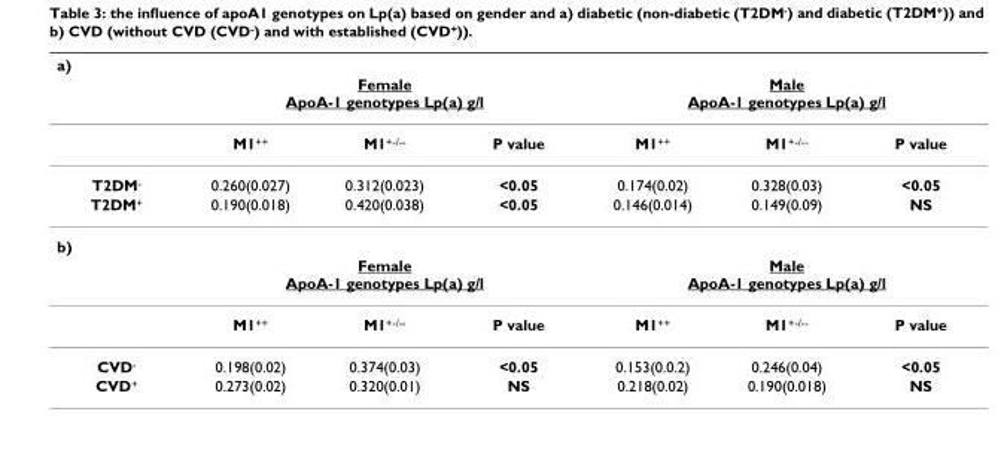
<table><thead><tr><td colspan="7">a)</td></tr><tr><td rowspan="2"></td><td colspan="3">Female ApoA-1 genotypes Lp(a) g/l</td><td colspan="3">Male ApoA-1 genotypes Lp(a) g/l</td></tr><tr><td>M1<sup>++</sup></td><td>M1<sup>+-/--</sup></td><td>P value</td><td>M1<sup>++</sup></td><td>M1<sup>+-/--</sup></td><td>P value</td></tr></thead><tbody><tr><td>T2DM<sup>-</sup></td><td>0.260(0.027)</td><td>0.312(0.023)</td><td>&lt;0.05</td><td>0.174(0.02)</td><td>0.328(0.03)</td><td>&lt;0.05</td></tr><tr><td>T2DM<sup>+</sup></td><td>0.190(0.018)</td><td>0.420(0.038)</td><td>&lt;0.05</td><td>0.146(0.014)</td><td>0.149(0.09)</td><td>NS</td></tr><tr><td colspan="7">b)</td></tr><tr><td></td><td colspan="3">Female ApoA-1 genotypes Lp(a) g/l</td><td colspan="3">Male ApoA-1 genotypes Lp(a) g/l</td></tr><tr><td></td><td>M1<sup>++</sup></td><td>M1<sup>+-/--</sup></td><td>P value</td><td>M1<sup>++</sup></td><td>M1<sup>+-/--</sup></td><td>P value</td></tr><tr><td>CVD<sup>-</sup></td><td>0.198(0.02)</td><td>0.374(0.03)</td><td>&lt;0.05</td><td>0.153(0.0.2)</td><td>0.246(0.04)</td><td>&lt;0.05</td></tr><tr><td>CVD<sup>+</sup></td><td>0.273(0.02)</td><td>0.320(0.01)</td><td>NS</td><td>0.218(0.02)</td><td>0.190(0.018)</td><td>NS</td></tr></tbody></table>